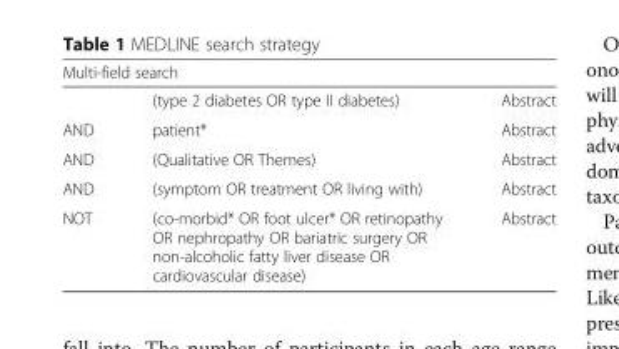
<table><thead><tr><td colspan="3">Multi-field search</td></tr><tr><td></td><td>(type 2 diabetes OR type II diabetes)</td><td>Abstract</td></tr></thead><tbody><tr><td>AND</td><td>patient*</td><td>Abstract</td></tr><tr><td>AND</td><td>(Qualitative OR Themes)</td><td>Abstract</td></tr><tr><td>AND</td><td>(symptom OR treatment OR living with)</td><td>Abstract</td></tr><tr><td>NOT</td><td>(co-morbid* OR foot ulcer* OR retinopathy OR nephropathy OR bariatric surgery OR non-alcoholic fatty liver disease OR cardiovascular disease)</td><td>Abstract</td></tr></tbody></table>